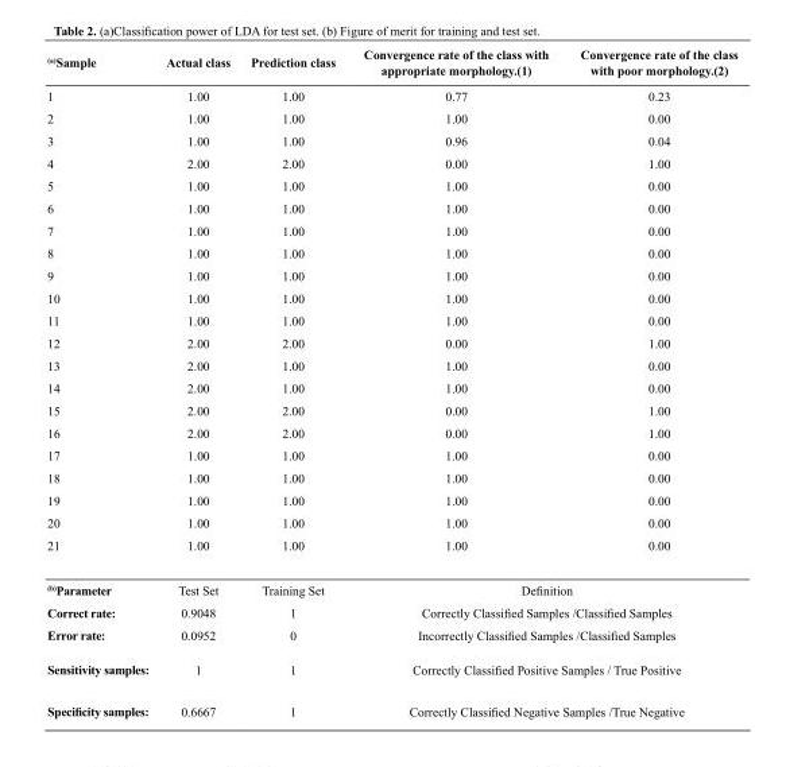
<table><thead><tr><td><sup>(a)</sup>Sample</td><td>Actual class</td><td>Prediction class</td><td>Convergence rate of the class with appropriate morphology.(1)</td><td>Convergence rate of the class with poor morphology.(2)</td></tr></thead><tbody><tr><td>1</td><td>1.00</td><td>1.00</td><td>0.77</td><td>0.23</td></tr><tr><td>2</td><td>1.00</td><td>1.00</td><td>1.00</td><td>0.00</td></tr><tr><td>3</td><td>1.00</td><td>1.00</td><td>0.96</td><td>0.04</td></tr><tr><td>4</td><td>2.00</td><td>2.00</td><td>0.00</td><td>1.00</td></tr><tr><td>5</td><td>1.00</td><td>1.00</td><td>1.00</td><td>0.00</td></tr><tr><td>6</td><td>1.00</td><td>1.00</td><td>1.00</td><td>0.00</td></tr><tr><td>7</td><td>1.00</td><td>1.00</td><td>1.00</td><td>0.00</td></tr><tr><td>8</td><td>1.00</td><td>1.00</td><td>1.00</td><td>0.00</td></tr><tr><td>9</td><td>1.00</td><td>1.00</td><td>1.00</td><td>0.00</td></tr><tr><td>10</td><td>1.00</td><td>1.00</td><td>1.00</td><td>0.00</td></tr><tr><td>11</td><td>1.00</td><td>1.00</td><td>1.00</td><td>0.00</td></tr><tr><td>12</td><td>2.00</td><td>2.00</td><td>0.00</td><td>1.00</td></tr><tr><td>13</td><td>2.00</td><td>1.00</td><td>1.00</td><td>0.00</td></tr><tr><td>14</td><td>2.00</td><td>1.00</td><td>1.00</td><td>0.00</td></tr><tr><td>15</td><td>2.00</td><td>2.00</td><td>0.00</td><td>1.00</td></tr><tr><td>16</td><td>2.00</td><td>2.00</td><td>0.00</td><td>1.00</td></tr><tr><td>17</td><td>1.00</td><td>1.00</td><td>1.00</td><td>0.00</td></tr><tr><td>18</td><td>1.00</td><td>1.00</td><td>1.00</td><td>0.00</td></tr><tr><td>19</td><td>1.00</td><td>1.00</td><td>1.00</td><td>0.00</td></tr><tr><td>20</td><td>1.00</td><td>1.00</td><td>1.00</td><td>0.00</td></tr><tr><td>21</td><td>1.00</td><td>1.00</td><td>1.00</td><td>0.00</td></tr><tr><td><sup>(b)</sup>Parameter</td><td>Test Set</td><td>Training Set</td><td colspan="2">Definition</td></tr><tr><td>Correct rate:</td><td>0.9048</td><td>1</td><td colspan="2">Correctly Classified Samples /Classified Samples</td></tr><tr><td>Error rate:</td><td>0.0952</td><td>0</td><td colspan="2">Incorrectly Classified Samples /Classified Samples</td></tr><tr><td>Sensitivity samples:</td><td>1</td><td>1</td><td colspan="2">Correctly Classified Positive Samples / True Positive</td></tr><tr><td>Specificity samples:</td><td>0.6667</td><td>1</td><td colspan="2">Correctly Classified Negative Samples /True Negative</td></tr></tbody></table>